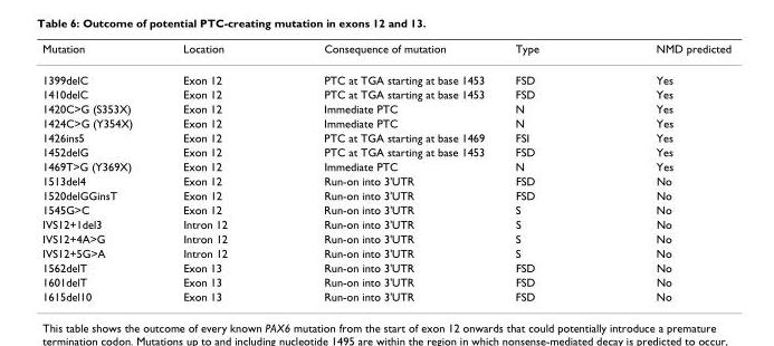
<table><thead><tr><td>Mutation</td><td>Location</td><td>Consequence of mutation</td><td>Type</td><td>NMD predicted</td></tr></thead><tbody><tr><td>1399delC</td><td>Exon 12</td><td>PTC at TGA starting at base 1453</td><td>FSD</td><td>Yes</td></tr><tr><td>1410delC</td><td>Exon 12</td><td>PTC at TGA starting at base 1453</td><td>FSD</td><td>Yes</td></tr><tr><td>1420C&gt;G (S353X)</td><td>Exon 12</td><td>Immediate PTC</td><td>N</td><td>Yes</td></tr><tr><td>1424C&gt;G (Y354X)</td><td>Exon 12</td><td>Immediate PTC</td><td>N</td><td>Yes</td></tr><tr><td>1426ins5</td><td>Exon 12</td><td>PTC at TGA starting at base 1469</td><td>FSI</td><td>Yes</td></tr><tr><td>1452delG</td><td>Exon 12</td><td>PTC at TGA starting at base 1453</td><td>FSD</td><td>Yes</td></tr><tr><td>1469T&gt;G (Y369X)</td><td>Exon 12</td><td>Immediate PTC</td><td>N</td><td>Yes</td></tr><tr><td>1513del4</td><td>Exon 12</td><td>Run-on into 3&#x27;UTR</td><td>FSD</td><td>No</td></tr><tr><td>1520delGGinsT</td><td>Exon 12</td><td>Run-on into 3&#x27;UTR</td><td>FSD</td><td>No</td></tr><tr><td>1545G&gt;C</td><td>Exon 12</td><td>Run-on into 3&#x27;UTR</td><td>S</td><td>No</td></tr><tr><td>IVS12+1del3</td><td>Intron 12</td><td>Run-on into 3&#x27;UTR</td><td>S</td><td>No</td></tr><tr><td>IVS12+4A&gt;G</td><td>Intron 12</td><td>Run-on into 3&#x27;UTR</td><td>S</td><td>No</td></tr><tr><td>IVS12+5G&gt;A</td><td>Intron 12</td><td>Run-on into 3&#x27;UTR</td><td>S</td><td>No</td></tr><tr><td>1562delT</td><td>Exon 13</td><td>Run-on into 3&#x27;UTR</td><td>FSD</td><td>No</td></tr><tr><td>1601delT</td><td>Exon 13</td><td>Run-on into 3&#x27;UTR</td><td>FSD</td><td>No</td></tr><tr><td>1615del10</td><td>Exon 13</td><td>Run-on into 3&#x27;UTR</td><td>FSD</td><td>No</td></tr></tbody></table>